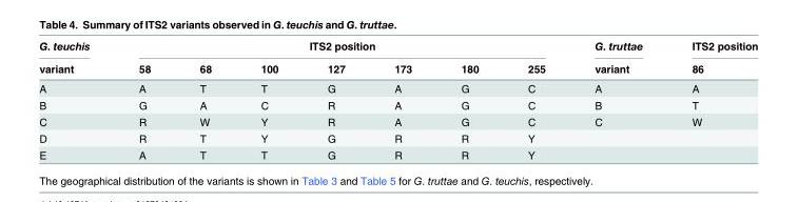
<table><thead><tr><td rowspan="2">G. teuchis variant</td><td colspan="7">ITS2 position</td><td rowspan="2">G. truttae variant</td><td rowspan="2">ITS2 position 86</td></tr><tr><td>58</td><td>68</td><td>100</td><td>127</td><td>173</td><td>180</td><td>255</td></tr></thead><tbody><tr><td>A</td><td>A</td><td>T</td><td>T</td><td>G</td><td>A</td><td>G</td><td>C</td><td>A</td><td>A</td></tr><tr><td>B</td><td>G</td><td>A</td><td>C</td><td>R</td><td>A</td><td>G</td><td>C</td><td>B</td><td>T</td></tr><tr><td>C</td><td>R</td><td>W</td><td>Y</td><td>R</td><td>A</td><td>G</td><td>C</td><td>C</td><td>W</td></tr><tr><td>D</td><td>R</td><td>T</td><td>Y</td><td>G</td><td>R</td><td>R</td><td>Y</td><td></td><td></td></tr><tr><td>E</td><td>A</td><td>T</td><td>T</td><td>G</td><td>R</td><td>R</td><td>Y</td><td></td><td></td></tr></tbody></table>